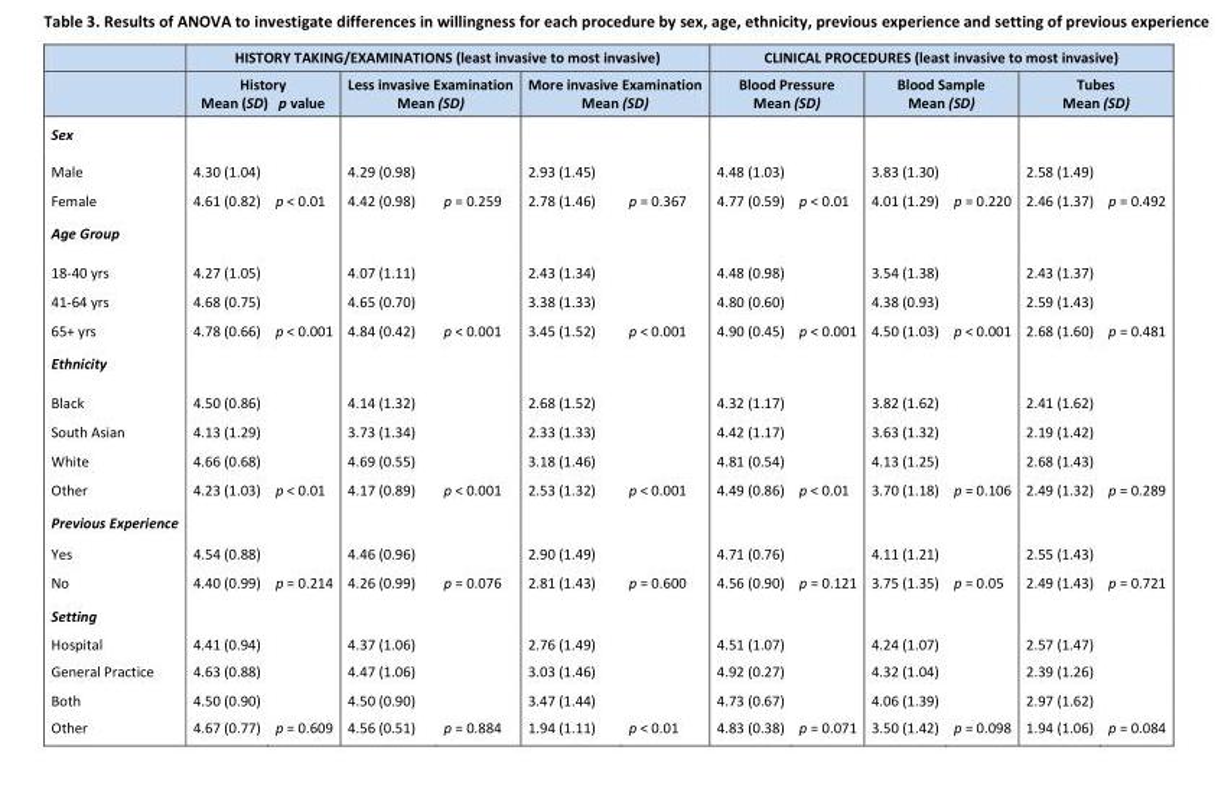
<table><thead><tr><td rowspan="3">Sex</td><td colspan="6">HISTORY TAKING/EXAMINATIONS (least invasive to most invasive)</td><td colspan="6">CLINICAL PROCEDURES (least invasive to most invasive)</td></tr><tr><td colspan="2">History Mean (SD) p value</td><td colspan="2">Less invasive Examination Mean (SD)</td><td colspan="2">More invasive Examination Mean (SD)</td><td colspan="2">Blood Pressure Mean (SD)</td><td colspan="2">Blood Sample Mean (SD)</td><td colspan="2">Tubes Mean (SD)</td></tr><tr><td></td><td></td><td></td><td></td><td></td><td></td><td></td><td></td><td></td><td></td><td></td><td></td></tr></thead><tbody><tr><td>Male</td><td>4.30 (1.04)</td><td></td><td>4.29 (0.98)</td><td></td><td>2.93 (1.45)</td><td></td><td>4.48 (1.03)</td><td></td><td>3.83 (1.30)</td><td></td><td>2.58 (1.49)</td><td></td></tr><tr><td>Female</td><td>4.61 (0.82)</td><td>p &lt; 0.01</td><td>4.42 (0.98)</td><td>p = 0.259</td><td>2.78 (1.46)</td><td>p = 0.367</td><td>4.77 (0.59)</td><td>p &lt; 0.01</td><td>4.01 (1.29)</td><td>p = 0.220</td><td>2.46 (1.37)</td><td>p = 0.492</td></tr><tr><td colspan="13">Age Group</td></tr><tr><td>18-40 yrs</td><td>4.27 (1.05)</td><td></td><td>4.07 (1.11)</td><td></td><td>2.43 (1.34)</td><td></td><td>4.48 (0.98)</td><td></td><td>3.54 (1.38)</td><td></td><td>2.43 (1.37)</td><td></td></tr><tr><td>41-64 yrs</td><td>4.68 (0.75)</td><td></td><td>4.65 (0.70)</td><td></td><td>3.38 (1.33)</td><td></td><td>4.80 (0.60)</td><td></td><td>4.38 (0.93)</td><td></td><td>2.59 (1.43)</td><td></td></tr><tr><td>65+ yrs</td><td>4.78 (0.66)</td><td>p &lt; 0.001</td><td>4.84 (0.42)</td><td>p &lt; 0.001</td><td>3.45 (1.52)</td><td>p &lt; 0.001</td><td>4.90 (0.45)</td><td>p &lt; 0.001</td><td>4.50 (1.03)</td><td>p &lt; 0.001</td><td>2.68 (1.60)</td><td>p = 0.481</td></tr><tr><td colspan="13">Ethnicity</td></tr><tr><td>Black</td><td>4.50 (0.86)</td><td></td><td>4.14 (1.32)</td><td></td><td>2.68 (1.52)</td><td></td><td>4.32 (1.17)</td><td></td><td>3.82 (1.62)</td><td></td><td>2.41 (1.62)</td><td></td></tr><tr><td>South Asian</td><td>4.13 (1.29)</td><td></td><td>3.73 (1.34)</td><td></td><td>2.33 (1.33)</td><td></td><td>4.42 (1.17)</td><td></td><td>3.63 (1.32)</td><td></td><td>2.19 (1.42)</td><td></td></tr><tr><td>White</td><td>4.66 (0.68)</td><td></td><td>4.69 (0.55)</td><td></td><td>3.18 (1.46)</td><td></td><td>4.81 (0.54)</td><td></td><td>4.13 (1.25)</td><td></td><td>2.68 (1.43)</td><td></td></tr><tr><td>Other</td><td>4.23 (1.03)</td><td>p &lt; 0.01</td><td>4.17 (0.89)</td><td>p &lt; 0.001</td><td>2.53 (1.32)</td><td>p &lt; 0.001</td><td>4.49 (0.86)</td><td>p &lt; 0.01</td><td>3.70 (1.18)</td><td>p = 0.106</td><td>2.49 (1.32)</td><td>p = 0.289</td></tr><tr><td colspan="13">Previous Experience</td></tr><tr><td>Yes</td><td>4.54 (0.88)</td><td></td><td>4.46 (0.96)</td><td></td><td>2.90 (1.49)</td><td></td><td>4.71 (0.76)</td><td></td><td>4.11 (1.21)</td><td></td><td>2.55 (1.43)</td><td></td></tr><tr><td>No</td><td>4.40 (0.99)</td><td>p = 0.214</td><td>4.26 (0.99)</td><td>p = 0.076</td><td>2.81 (1.43)</td><td>p = 0.600</td><td>4.56 (0.90)</td><td>p = 0.121</td><td>3.75 (1.35)</td><td>p = 0.05</td><td>2.49 (1.43)</td><td>p = 0.721</td></tr><tr><td colspan="13">Setting</td></tr><tr><td>Hospital</td><td>4.41 (0.94)</td><td></td><td>4.37 (1.06)</td><td></td><td>2.76 (1.49)</td><td></td><td>4.51 (1.07)</td><td></td><td>4.24 (1.07)</td><td></td><td>2.57 (1.47)</td><td></td></tr><tr><td>General Practice</td><td>4.63 (0.88)</td><td></td><td>4.47 (1.06)</td><td></td><td>3.03 (1.46)</td><td></td><td>4.92 (0.27)</td><td></td><td>4.32 (1.04)</td><td></td><td>2.39 (1.26)</td><td></td></tr><tr><td>Both</td><td>4.50 (0.90)</td><td></td><td>4.50 (0.90)</td><td></td><td>3.47 (1.44)</td><td></td><td>4.73 (0.67)</td><td></td><td>4.06 (1.39)</td><td></td><td>2.97 (1.62)</td><td></td></tr><tr><td>Other</td><td>4.67 (0.77)</td><td>p = 0.609</td><td>4.56 (0.51)</td><td>p = 0.884</td><td>1.94 (1.11)</td><td>p &lt; 0.01</td><td>4.83 (0.38)</td><td>p = 0.071</td><td>3.50 (1.42)</td><td>p = 0.098</td><td>1.94 (1.06)</td><td>p = 0.084</td></tr></tbody></table>